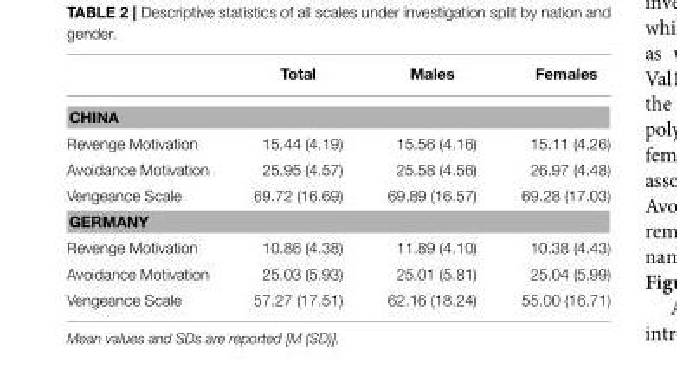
<table><thead><tr><td></td><td>Total</td><td>Males</td><td>Females</td></tr></thead><tbody><tr><td colspan="4">CHINA</td></tr><tr><td>Revenge Motivation</td><td>15.44 (4.19)</td><td>15.56 (4.16)</td><td>15.11 (4.26)</td></tr><tr><td>Avoidance Motivation</td><td>25.95 (4.57)</td><td>25.58 (4.56)</td><td>26.97 (4.48)</td></tr><tr><td>Vengeance Scale</td><td>69.72 (16.69)</td><td>69.89 (16.57)</td><td>69.28 (17.03)</td></tr><tr><td colspan="4">GERMANY</td></tr><tr><td>Revenge Motivation</td><td>10.86 (4.38)</td><td>11.89 (4.10)</td><td>10.38 (4.43)</td></tr><tr><td>Avoidance Motivation</td><td>25.03 (5.93)</td><td>25.01 (5.81)</td><td>25.04 (5.99)</td></tr><tr><td>Vengeance Scale</td><td>57.27 (17.51)</td><td>62.16 (18.24)</td><td>55.00 (16.71)</td></tr></tbody></table>